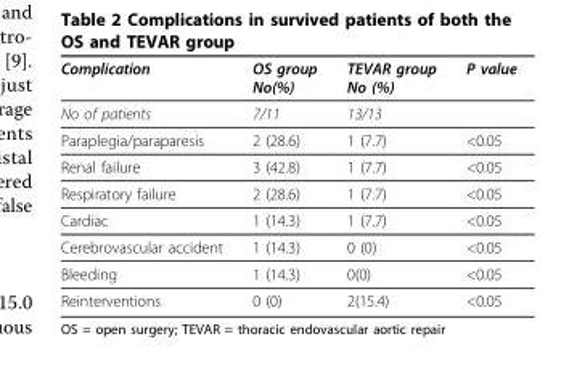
<table><thead><tr><td>Complication</td><td>OS group No(%)</td><td>TEVAR group No (%)</td><td>P value</td></tr></thead><tbody><tr><td>No of patients</td><td>7/11</td><td>13/13</td><td></td></tr><tr><td>Paraplegia/paraparesis</td><td>2 (28.6)</td><td>1 (7.7)</td><td>&lt;0.05</td></tr><tr><td>Renal failure</td><td>3 (42.8)</td><td>1 (7.7)</td><td>&lt;0.05</td></tr><tr><td>Respiratory failure</td><td>2 (28.6)</td><td>1 (7.7)</td><td>&lt;0.05</td></tr><tr><td>Cardiac</td><td>1 (14.3)</td><td>1 (7.7)</td><td>&lt;0.05</td></tr><tr><td>Cerebrovascular accident</td><td>1 (14.3)</td><td>0 (0)</td><td>&lt;0.05</td></tr><tr><td>Bleeding</td><td>1 (14.3)</td><td>0(0)</td><td>&lt;0.05</td></tr><tr><td>Reinterventions</td><td>0 (0)</td><td>2(15.4)</td><td>&lt;0.05</td></tr></tbody></table>